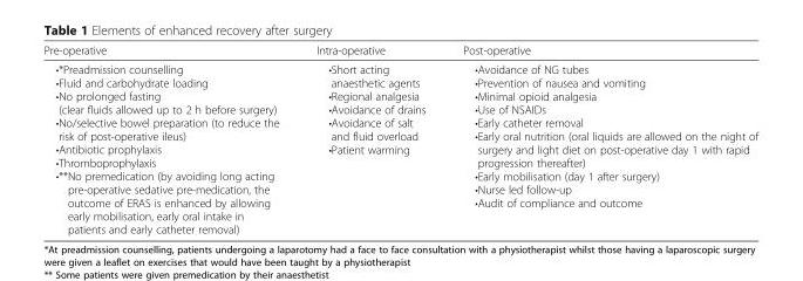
<table><thead><tr><td>Pre-operative</td><td>Intra-operative</td><td>Post-operative</td></tr></thead><tbody><tr><td>•*Preadmission counselling •Fluid and carbohydrate loading •No prolonged fasting (clear fluids allowed up to 2 h before surgery) •No/selective bowel preparation (to reduce the risk of post-operative ileus) •Antibiotic prophylaxis •Thromboprophylaxis •**No premedication (by avoiding long acting pre-operative sedative pre-medication, the outcome of ERAS is enhanced by allowing early mobilisation, early oral intake in patients and early catheter removal)</td><td>•Short acting anaesthetic agents •Regional analgesia •Avoidance of drains •Avoidance of salt and fluid overload •Patient warming</td><td>•Avoidance of NG tubes •Prevention of nausea and vomiting •Minimal opioid analgesia •Use of NSAIDs •Early catheter removal •Early oral nutrition (oral liquids are allowed on the night of surgery and light diet on post-operative day 1 with rapid progression thereafter) •Early mobilisation (day 1 after surgery) •Nurse led follow-up •Audit of compliance and outcome</td></tr></tbody></table>